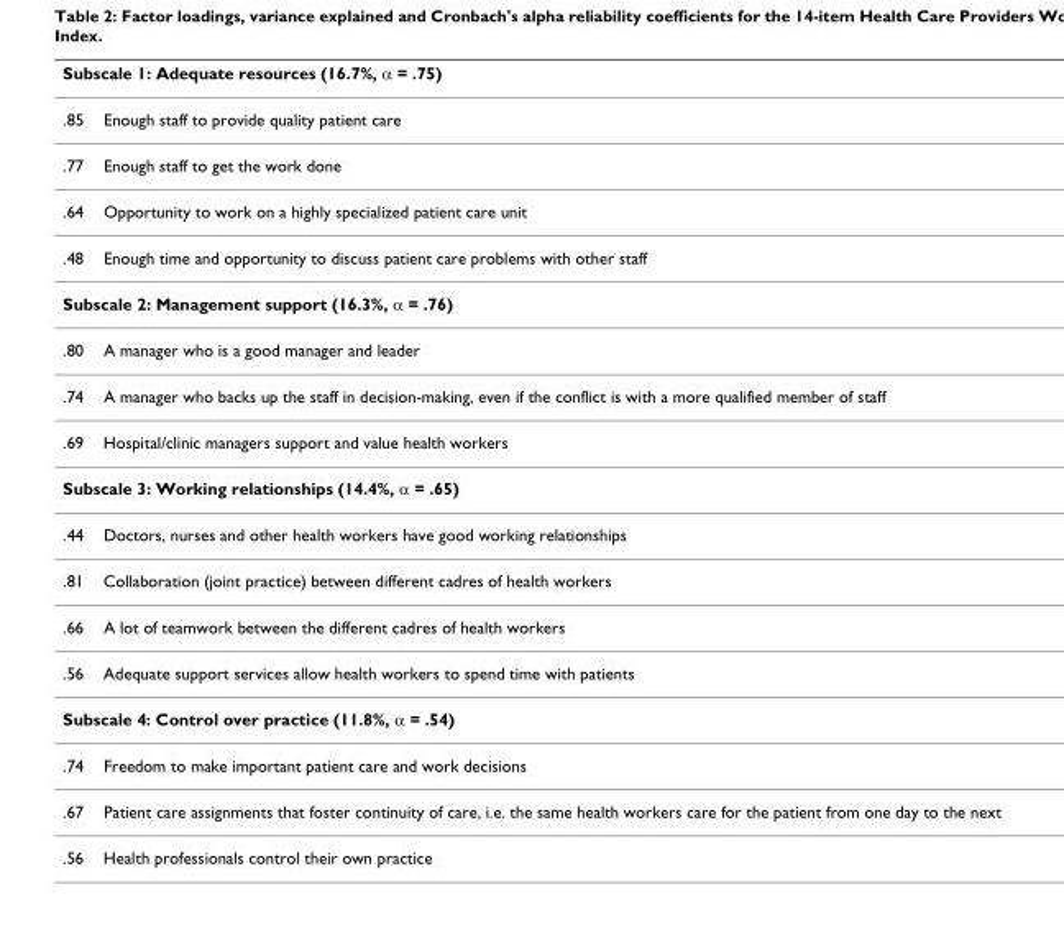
<table><thead><tr><td colspan="2">Subscale 1: Adequate resources (16.7%, α = .75)</td></tr><tr><td>.85</td><td>Enough staff to provide quality patient care</td></tr></thead><tbody><tr><td>.77</td><td>Enough staff to get the work done</td></tr><tr><td>.64</td><td>Opportunity to work on a highly specialized patient care unit</td></tr><tr><td>.48</td><td>Enough time and opportunity to discuss patient care problems with other staff</td></tr><tr><td colspan="2">Subscale 2: Management support (16.3%, α = .76)</td></tr><tr><td>.80</td><td>A manager who is a good manager and leader</td></tr><tr><td>.74</td><td>A manager who backs up the staff in decision-making, even if the conflict is with a more qualified member of staff</td></tr><tr><td>.69</td><td>Hospital/clinic managers support and value health workers</td></tr><tr><td colspan="2">Subscale 3: Working relationships (14.4%, α = .65)</td></tr><tr><td>.44</td><td>Doctors, nurses and other health workers have good working relationships</td></tr><tr><td>.81</td><td>Collaboration (joint practice) between different cadres of health workers</td></tr><tr><td>.66</td><td>A lot of teamwork between the different cadres of health workers</td></tr><tr><td>.56</td><td>Adequate support services allow health workers to spend time with patients</td></tr><tr><td colspan="2">Subscale 4: Control over practice (11.8%, α = .54)</td></tr><tr><td>.74</td><td>Freedom to make important patient care and work decisions</td></tr><tr><td>.67</td><td>Patient care assignments that foster continuity of care, i.e. the same health workers care for the patient from one day to the next</td></tr><tr><td>.56</td><td>Health professionals control their own practice</td></tr></tbody></table>